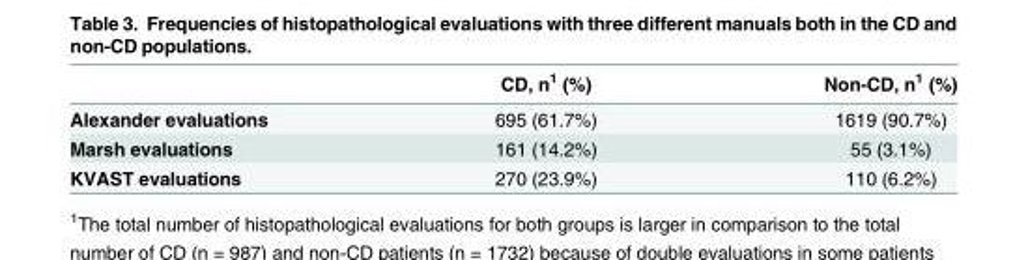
<table><thead><tr><td></td><td>CD, n<sup>1</sup> (%)</td><td>Non-CD, n<sup>1</sup> (%)</td></tr></thead><tbody><tr><td>Alexander evaluations</td><td>695 (61.7%)</td><td>1619 (90.7%)</td></tr><tr><td>Marsh evaluations</td><td>161 (14.2%)</td><td>55 (3.1%)</td></tr><tr><td>KVAST evaluations</td><td>270 (23.9%)</td><td>110 (6.2%)</td></tr></tbody></table>